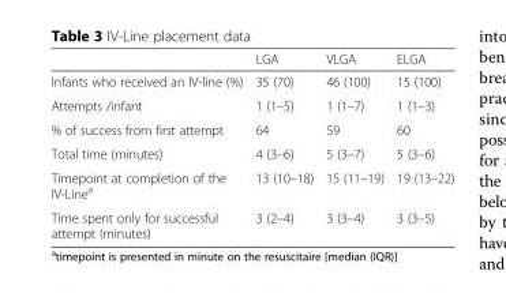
<table><thead><tr><td></td><td>LGA</td><td>VLGA</td><td>ELGA</td></tr></thead><tbody><tr><td>Infants who received an IV-line (%)</td><td>35 (70)</td><td>46 (100)</td><td>15 (100)</td></tr><tr><td>Attempts /infant</td><td>1 (1–5)</td><td>1 (1–7)</td><td>1 (1–3)</td></tr><tr><td>% of success from first attempt</td><td>64</td><td>59</td><td>60</td></tr><tr><td>Total time (minutes)</td><td>4 (3–6)</td><td>5 (3–7)</td><td>5 (3–6)</td></tr><tr><td>Timepoint at completion of the IV-Line<sup>a</sup></td><td>13 (10–18)</td><td>15 (11–19)</td><td>19 (13–22)</td></tr><tr><td>Time spent only for successful attempt (minutes)</td><td>3 (2–4)</td><td>3 (3–4)</td><td>3 (3–5)</td></tr></tbody></table>